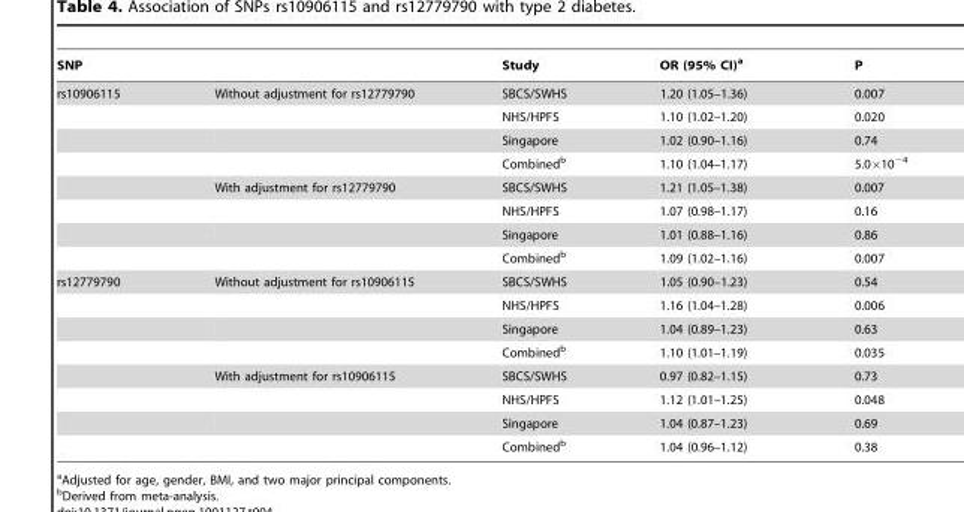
<table><thead><tr><td colspan="2">SNP</td><td rowspan="2">Study SBCS/SWHS</td><td rowspan="2">OR (95% CI)<sup>a</sup> 1.20 (1.05–1.36)</td><td rowspan="2">P 0.007</td></tr><tr><td>rs10906115</td><td>Without adjustment for rs12779790</td></tr></thead><tbody><tr><td></td><td></td><td>NHS/HPFS</td><td>1.10 (1.02–1.20)</td><td>0.020</td></tr><tr><td></td><td></td><td>Singapore</td><td>1.02 (0.90–1.16)</td><td>0.74</td></tr><tr><td></td><td></td><td>Combined<sup>b</sup></td><td>1.10 (1.04–1.17)</td><td>5.0×10<sup>−4</sup></td></tr><tr><td></td><td>With adjustment for rs12779790</td><td>SBCS/SWHS</td><td>1.21 (1.05–1.38)</td><td>0.007</td></tr><tr><td></td><td></td><td>NHS/HPFS</td><td>1.07 (0.98–1.17)</td><td>0.16</td></tr><tr><td></td><td></td><td>Singapore</td><td>1.01 (0.88–1.16)</td><td>0.86</td></tr><tr><td></td><td></td><td>Combined<sup>b</sup></td><td>1.09 (1.02–1.16)</td><td>0.007</td></tr><tr><td rowspan="8">rs12779790</td><td>Without adjustment for rs10906115</td><td>SBCS/SWHS</td><td>1.05 (0.90–1.23)</td><td>0.54</td></tr><tr><td></td><td>NHS/HPFS</td><td>1.16 (1.04–1.28)</td><td>0.006</td></tr><tr><td></td><td>Singapore</td><td>1.04 (0.89–1.23)</td><td>0.63</td></tr><tr><td></td><td>Combined<sup>b</sup></td><td>1.10 (1.01–1.19)</td><td>0.035</td></tr><tr><td>With adjustment for rs10906115</td><td>SBCS/SWHS</td><td>0.97 (0.82–1.15)</td><td>0.73</td></tr><tr><td></td><td>NHS/HPFS</td><td>1.12 (1.01–1.25)</td><td>0.048</td></tr><tr><td></td><td>Singapore</td><td>1.04 (0.87–1.23)</td><td>0.69</td></tr><tr><td></td><td>Combined<sup>b</sup></td><td>1.04 (0.96–1.12)</td><td>0.38</td></tr></tbody></table>